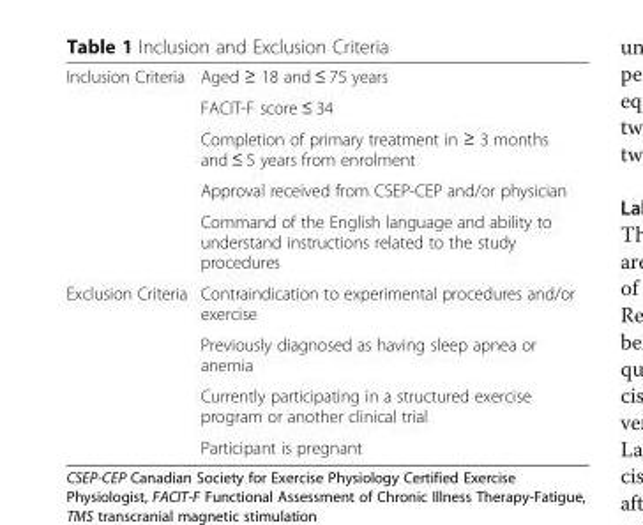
<table><tbody><tr><td rowspan="5">Inclusion Criteria</td><td>Aged ≥ 18 and ≤ 75 years</td></tr><tr><td>FACIT-F score ≤ 34</td></tr><tr><td>Completion of primary treatment in ≥ 3 months and ≤ 5 years from enrolment</td></tr><tr><td>Approval received from CSEP-CEP and/or physician</td></tr><tr><td>Command of the English language and ability to understand instructions related to the study procedures</td></tr><tr><td rowspan="4">Exclusion Criteria</td><td>Contraindication to experimental procedures and/or exercise</td></tr><tr><td>Previously diagnosed as having sleep apnea or anemia</td></tr><tr><td>Currently participating in a structured exercise program or another clinical trial</td></tr><tr><td>Participant is pregnant</td></tr></tbody></table>